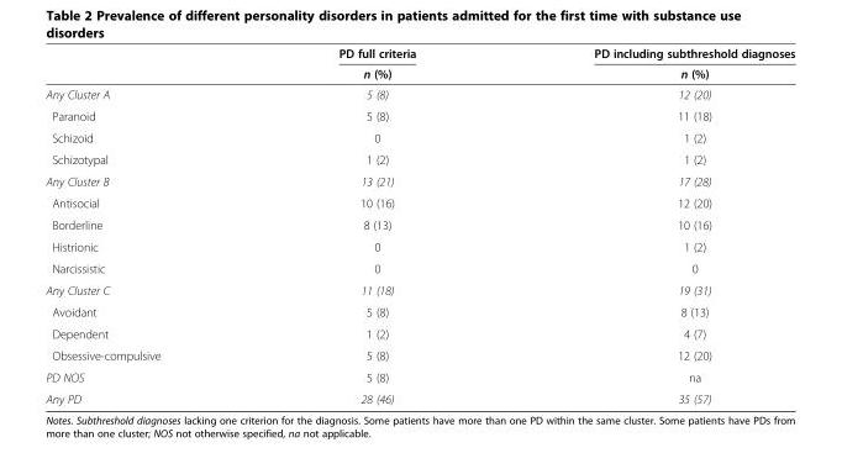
<table><thead><tr><td rowspan="2"></td><td rowspan="2">PD full criteria n (%)</td><td rowspan="2">PD including subthreshold diagnoses n (%)</td></tr><tr></tr></thead><tbody><tr><td>Any Cluster A</td><td>5 (8)</td><td>12 (20)</td></tr><tr><td>Paranoid</td><td>5 (8)</td><td>11 (18)</td></tr><tr><td>Schizoid</td><td>0</td><td>1 (2)</td></tr><tr><td>Schizotypal</td><td>1 (2)</td><td>1 (2)</td></tr><tr><td>Any Cluster B</td><td>13 (21)</td><td>17 (28)</td></tr><tr><td>Antisocial</td><td>10 (16)</td><td>12 (20)</td></tr><tr><td>Borderline</td><td>8 (13)</td><td>10 (16)</td></tr><tr><td>Histrionic</td><td>0</td><td>1 (2)</td></tr><tr><td>Narcissistic</td><td>0</td><td>0</td></tr><tr><td>Any Cluster C</td><td>11 (18)</td><td>19 (31)</td></tr><tr><td>Avoidant</td><td>5 (8)</td><td>8 (13)</td></tr><tr><td>Dependent</td><td>1 (2)</td><td>4 (7)</td></tr><tr><td>Obsessive-compulsive</td><td>5 (8)</td><td>12 (20)</td></tr><tr><td>PD NOS</td><td>5 (8)</td><td>na</td></tr><tr><td>Any PD</td><td>28 (46)</td><td>35 (57)</td></tr></tbody></table>